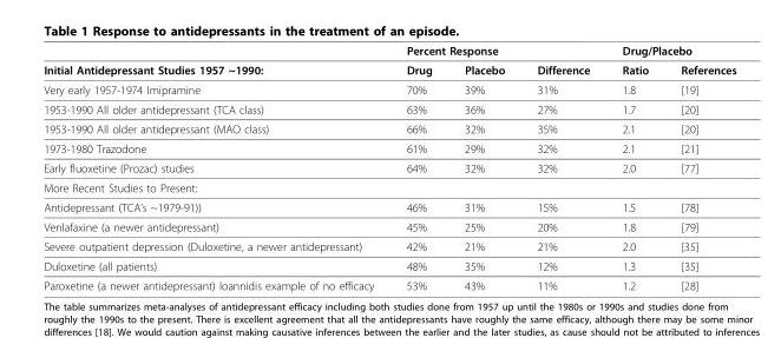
<table><thead><tr><td rowspan="2">Initial Antidepressant Studies 1957 ~1990:</td><td colspan="3">Percent Response</td><td colspan="2">Drug/Placebo</td></tr><tr><td>Drug</td><td>Placebo</td><td>Difference</td><td>Ratio</td><td>References</td></tr></thead><tbody><tr><td>Very early 1957-1974 Imipramine</td><td>70%</td><td>39%</td><td>31%</td><td>1.8</td><td>[19]</td></tr><tr><td>1953-1990 All older antidepressant (TCA class)</td><td>63%</td><td>36%</td><td>27%</td><td>1.7</td><td>[20]</td></tr><tr><td>1953-1990 All older antidepressant (MAO class)</td><td>66%</td><td>32%</td><td>35%</td><td>2.1</td><td>[20]</td></tr><tr><td>1973-1980 Trazodone</td><td>61%</td><td>29%</td><td>32%</td><td>2.1</td><td>[21]</td></tr><tr><td>Early fluoxetine (Prozac) studies</td><td>64%</td><td>32%</td><td>32%</td><td>2.0</td><td>[77]</td></tr><tr><td colspan="6">More Recent Studies to Present:</td></tr><tr><td>Antidepressant (TCA’s ~1979-91))</td><td>46%</td><td>31%</td><td>15%</td><td>1.5</td><td>[78]</td></tr><tr><td>Venlafaxine (a newer antidepressant)</td><td>45%</td><td>25%</td><td>20%</td><td>1.8</td><td>[79]</td></tr><tr><td>Severe outpatient depression (Duloxetine, a newer antidepressant)</td><td>42%</td><td>21%</td><td>21%</td><td>2.0</td><td>[35]</td></tr><tr><td>Duloxetine (all patients)</td><td>48%</td><td>35%</td><td>12%</td><td>1.3</td><td>[35]</td></tr><tr><td>Paroxetine (a newer antidepressant) Ioannidis example of no efficacy</td><td>53%</td><td>43%</td><td>11%</td><td>1.2</td><td>[28]</td></tr></tbody></table>